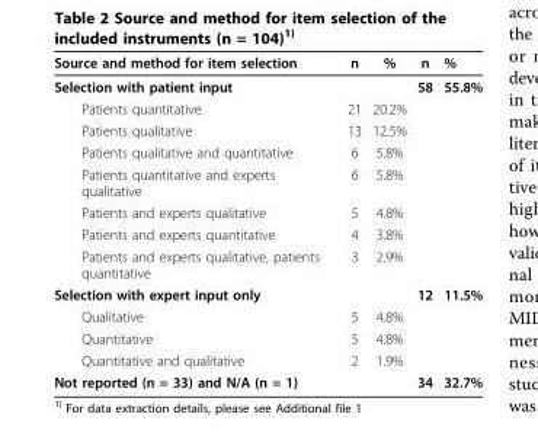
<table><thead><tr><td>Source and method for item selection</td><td>n</td><td>%</td><td>n</td><td>%</td></tr></thead><tbody><tr><td>Selection with patient input</td><td></td><td></td><td>58</td><td>55.8%</td></tr><tr><td>Patients quantitative</td><td>21</td><td>20.2%</td><td></td><td></td></tr><tr><td>Patients qualitative</td><td>13</td><td>12.5%</td><td></td><td></td></tr><tr><td>Patients qualitative and quantitative</td><td>6</td><td>5.8%</td><td></td><td></td></tr><tr><td>Patients quantitative and experts qualitative</td><td>6</td><td>5.8%</td><td></td><td></td></tr><tr><td>Patients and experts qualitative</td><td>5</td><td>4.8%</td><td></td><td></td></tr><tr><td>Patients and experts quantitative</td><td>4</td><td>3.8%</td><td></td><td></td></tr><tr><td>Patients and experts qualitative, patients quantitative</td><td>3</td><td>2.9%</td><td></td><td></td></tr><tr><td>Selection with expert input only</td><td></td><td></td><td>12</td><td>11.5%</td></tr><tr><td>Qualitative</td><td>5</td><td>4.8%</td><td></td><td></td></tr><tr><td>Quantitative</td><td>5</td><td>4.8%</td><td></td><td></td></tr><tr><td>Quantitative and qualitative</td><td>2</td><td>1.9%</td><td></td><td></td></tr><tr><td>Not reported (n = 33) and N/A (n = 1)</td><td></td><td></td><td>34</td><td>32.7%</td></tr></tbody></table>